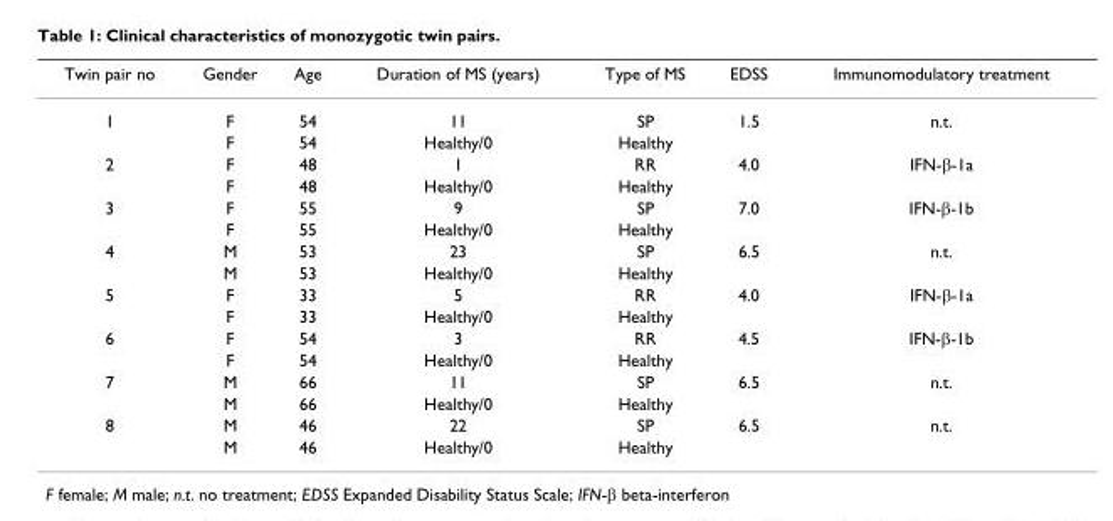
<table><thead><tr><td>Twin pair no</td><td>Gender</td><td>Age</td><td>Duration of MS (years)</td><td>Type of MS</td><td>EDSS</td><td>Immunomodulatory treatment</td></tr></thead><tbody><tr><td rowspan="2">1</td><td>F</td><td>54</td><td>11</td><td>SP</td><td>1.5</td><td>n.t.</td></tr><tr><td>F</td><td>54</td><td>Healthy/0</td><td>Healthy</td><td></td><td></td></tr><tr><td rowspan="2">2</td><td>F</td><td>48</td><td>1</td><td>RR</td><td>4.0</td><td>IFN-β-1a</td></tr><tr><td>F</td><td>48</td><td>Healthy/0</td><td>Healthy</td><td></td><td></td></tr><tr><td rowspan="2">3</td><td>F</td><td>55</td><td>9</td><td>SP</td><td>7.0</td><td>IFN-β-1b</td></tr><tr><td>F</td><td>55</td><td>Healthy/0</td><td>Healthy</td><td></td><td></td></tr><tr><td rowspan="2">4</td><td>M</td><td>53</td><td>23</td><td>SP</td><td>6.5</td><td>n.t.</td></tr><tr><td>M</td><td>53</td><td>Healthy/0</td><td>Healthy</td><td></td><td></td></tr><tr><td rowspan="2">5</td><td>F</td><td>33</td><td>5</td><td>RR</td><td>4.0</td><td>IFN-β-1a</td></tr><tr><td>F</td><td>33</td><td>Healthy/0</td><td>Healthy</td><td></td><td></td></tr><tr><td rowspan="2">6</td><td>F</td><td>54</td><td>3</td><td>RR</td><td>4.5</td><td>IFN-β-1b</td></tr><tr><td>F</td><td>54</td><td>Healthy/0</td><td>Healthy</td><td></td><td></td></tr><tr><td rowspan="2">7</td><td>M</td><td>66</td><td>11</td><td>SP</td><td>6.5</td><td>n.t.</td></tr><tr><td>M</td><td>66</td><td>Healthy/0</td><td>Healthy</td><td></td><td></td></tr><tr><td rowspan="2">8</td><td>M</td><td>46</td><td>22</td><td>SP</td><td>6.5</td><td>n.t.</td></tr><tr><td>M</td><td>46</td><td>Healthy/0</td><td>Healthy</td><td></td><td></td></tr></tbody></table>